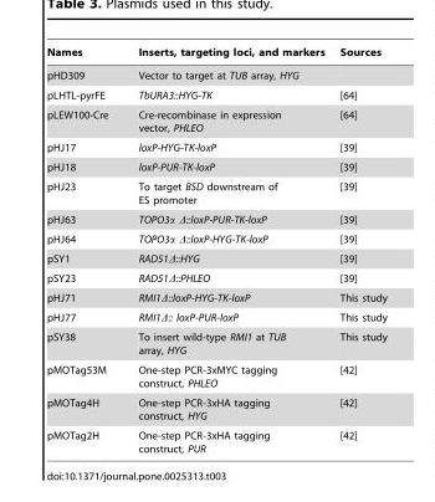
<table><thead><tr><td>Names</td><td>Inserts, targeting loci, and markers</td><td>Sources</td></tr></thead><tbody><tr><td>pHD309</td><td>Vector to target at TUB array, HYG</td><td></td></tr><tr><td>pLHTL-pyrFE</td><td>TbURA3::HYG-TK</td><td>[64]</td></tr><tr><td>pLEW100-Cre</td><td>Cre-recombinase in expression vector, PHLEO</td><td>[64]</td></tr><tr><td>pHJ17</td><td>loxP-HYG-TK-loxP</td><td>[39]</td></tr><tr><td>pHJ18</td><td>loxP-PUR-TK-loxP</td><td>[39]</td></tr><tr><td>pHJ23</td><td>To target BSD downstream of ES promoter</td><td>[39]</td></tr><tr><td>pHJ63</td><td>TOPO3α Δ::loxP-PUR-TK-loxP</td><td>[39]</td></tr><tr><td>pHJ64</td><td>TOPO3α Δ::loxP-HYG-TK-loxP</td><td>[39]</td></tr><tr><td>pSY1</td><td>RAD51Δ::HYG</td><td>[39]</td></tr><tr><td>pSY23</td><td>RAD51Δ::PHLEO</td><td>[39]</td></tr><tr><td>pHJ71</td><td>RMI1Δ::loxP-HYG-TK-loxP</td><td>This study</td></tr><tr><td>pHJ77</td><td>RMI1Δ:: loxP-PUR-loxP</td><td>This study</td></tr><tr><td>pSY38</td><td>To insert wild-type RMI1 at TUB array, HYG</td><td>This study</td></tr><tr><td>pMOTag53M</td><td>One-step PCR-3xMYC tagging construct, PHLEO</td><td>[42]</td></tr><tr><td>pMOTag4H</td><td>One-step PCR-3xHA tagging construct, HYG</td><td>[42]</td></tr><tr><td>pMOTag2H</td><td>One-step PCR-3xHA tagging construct, PUR</td><td>[42]</td></tr></tbody></table>